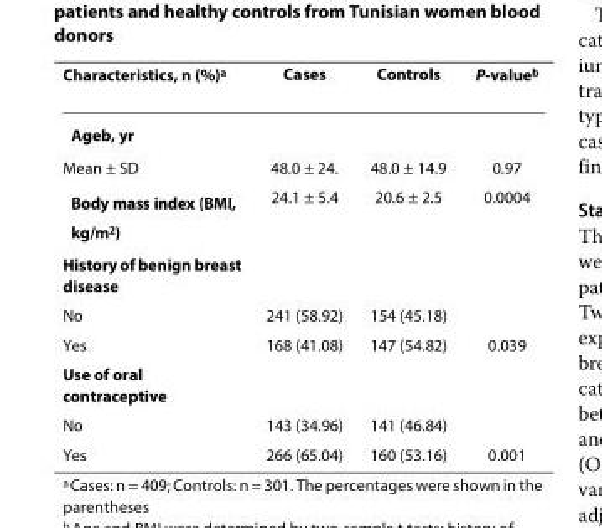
<table><thead><tr><td>Characteristics, n (%)<sup>a</sup></td><td>Cases</td><td>Controls</td><td>P-value<sup>b</sup></td></tr></thead><tbody><tr><td colspan="4">Age<sup>b</sup>, yr</td></tr><tr><td>Mean ± SD</td><td>48.0 ± 24.</td><td>48.0 ± 14.9</td><td>0.97</td></tr><tr><td>Body mass index (BMI, kg/m<sup>2</sup>)</td><td>24.1 ± 5.4</td><td>20.6 ± 2.5</td><td>0.0004</td></tr><tr><td colspan="4">History of benign breast disease</td></tr><tr><td>No</td><td>241 (58.92)</td><td>154 (45.18)</td><td></td></tr><tr><td>Yes</td><td>168 (41.08)</td><td>147 (54.82)</td><td>0.039</td></tr><tr><td colspan="4">Use of oral contraceptive</td></tr><tr><td>No</td><td>143 (34.96)</td><td>141 (46.84)</td><td></td></tr><tr><td>Yes</td><td>266 (65.04)</td><td>160 (53.16)</td><td>0.001</td></tr></tbody></table>